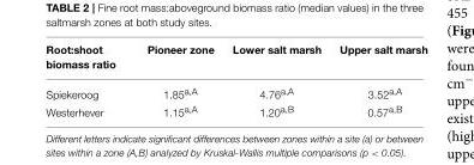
<table><thead><tr><td>Root:shoot biomass ratio</td><td>Pioneer zone</td><td>Lower salt marsh</td><td>Upper salt marsh</td></tr></thead><tbody><tr><td>Spiekeroog</td><td>1.85<sup>a,A</sup></td><td>4.76<sup>a,A</sup></td><td>3.52<sup>a,A</sup></td></tr><tr><td>Westerhever</td><td>1.15<sup>a,A</sup></td><td>1.20<sup>a,B</sup></td><td>0.57<sup>a,B</sup></td></tr></tbody></table>